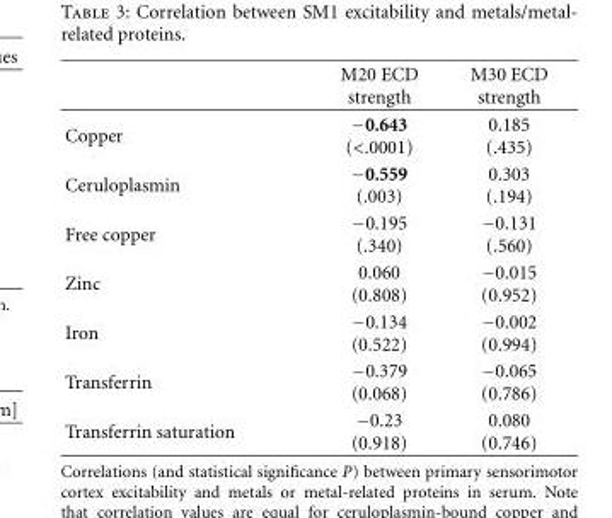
<table><thead><tr><td></td><td>M20 ECD strength</td><td>M30 ECD strength</td></tr></thead><tbody><tr><td>Copper</td><td>−0.643 (&lt;.0001)</td><td>0.185 (.435)</td></tr><tr><td>Ceruloplasmin</td><td>−0.559 (.003)</td><td>0.303 (.194)</td></tr><tr><td>Free copper</td><td>−0.195 (.340)</td><td>−0.131 (.560)</td></tr><tr><td>Zinc</td><td>0.060 (0.808)</td><td>−0.015 (0.952)</td></tr><tr><td>Iron</td><td>−0.134 (0.522)</td><td>−0.002 (0.994)</td></tr><tr><td>Transferrin</td><td>−0.379 (0.068)</td><td>−0.065 (0.786)</td></tr><tr><td>Transferrin saturation</td><td>−0.23 (0.918)</td><td>0.080 (0.746)</td></tr></tbody></table>